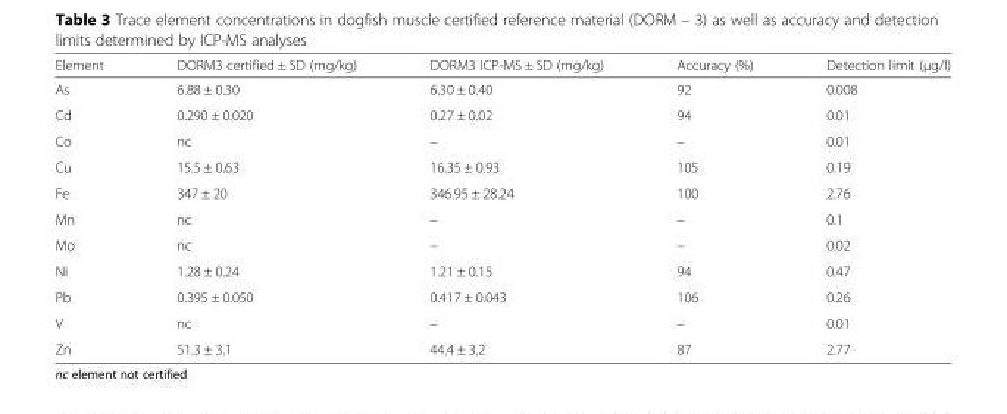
<table><thead><tr><td>Element</td><td>DORM3 certified ± SD (mg/kg)</td><td>DORM3 ICP-MS ± SD (mg/kg)</td><td>Accuracy (%)</td><td>Detection limit (μg/l)</td></tr></thead><tbody><tr><td>As</td><td>6.88 ± 0.30</td><td>6.30 ± 0.40</td><td>92</td><td>0.008</td></tr><tr><td>Cd</td><td>0.290 ± 0.020</td><td>0.27 ± 0.02</td><td>94</td><td>0.01</td></tr><tr><td>Co</td><td>nc</td><td>–</td><td>–</td><td>0.01</td></tr><tr><td>Cu</td><td>15.5 ± 0.63</td><td>16.35 ± 0.93</td><td>105</td><td>0.19</td></tr><tr><td>Fe</td><td>347 ± 20</td><td>346.95 ± 28.24</td><td>100</td><td>2.76</td></tr><tr><td>Mn</td><td>nc</td><td>–</td><td>–</td><td>0.1</td></tr><tr><td>Mo</td><td>nc</td><td>–</td><td>–</td><td>0.02</td></tr><tr><td>Ni</td><td>1.28 ± 0.24</td><td>1.21 ± 0.15</td><td>94</td><td>0.47</td></tr><tr><td>Pb</td><td>0.395 ± 0.050</td><td>0.417 ± 0.043</td><td>106</td><td>0.26</td></tr><tr><td>V</td><td>nc</td><td>–</td><td>–</td><td>0.01</td></tr><tr><td>Zn</td><td>51.3 ± 3.1</td><td>44.4 ± 3.2</td><td>87</td><td>2.77</td></tr></tbody></table>